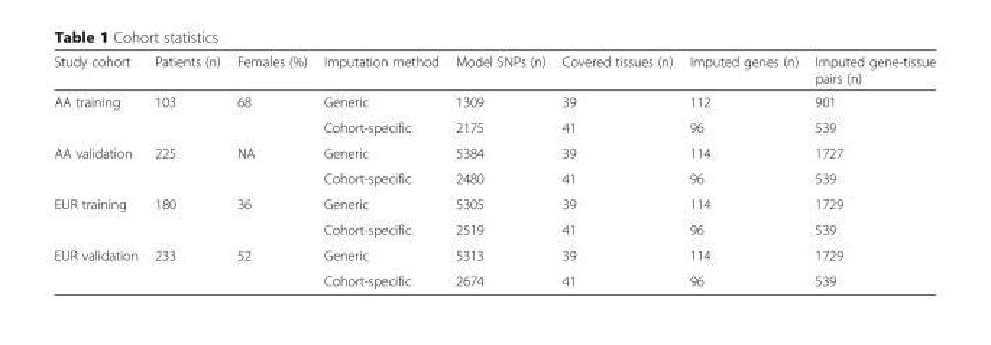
<table><thead><tr><td>Study cohort</td><td>Patients (n)</td><td>Females (%)</td><td>Imputation method</td><td>Model SNPs (n)</td><td>Covered tissues (n)</td><td>Imputed genes (n)</td><td>Imputed gene-tissue pairs (n)</td></tr></thead><tbody><tr><td rowspan="2">AA training</td><td rowspan="2">103</td><td rowspan="2">68</td><td>Generic</td><td>1309</td><td>39</td><td>112</td><td>901</td></tr><tr><td>Cohort-specific</td><td>2175</td><td>41</td><td>96</td><td>539</td></tr><tr><td rowspan="2">AA validation</td><td rowspan="2">225</td><td rowspan="2">NA</td><td>Generic</td><td>5384</td><td>39</td><td>114</td><td>1727</td></tr><tr><td>Cohort-specific</td><td>2480</td><td>41</td><td>96</td><td>539</td></tr><tr><td rowspan="2">EUR training</td><td rowspan="2">180</td><td rowspan="2">36</td><td>Generic</td><td>5305</td><td>39</td><td>114</td><td>1729</td></tr><tr><td>Cohort-specific</td><td>2519</td><td>41</td><td>96</td><td>539</td></tr><tr><td rowspan="2">EUR validation</td><td rowspan="2">233</td><td rowspan="2">52</td><td>Generic</td><td>5313</td><td>39</td><td>114</td><td>1729</td></tr><tr><td>Cohort-specific</td><td>2674</td><td>41</td><td>96</td><td>539</td></tr></tbody></table>